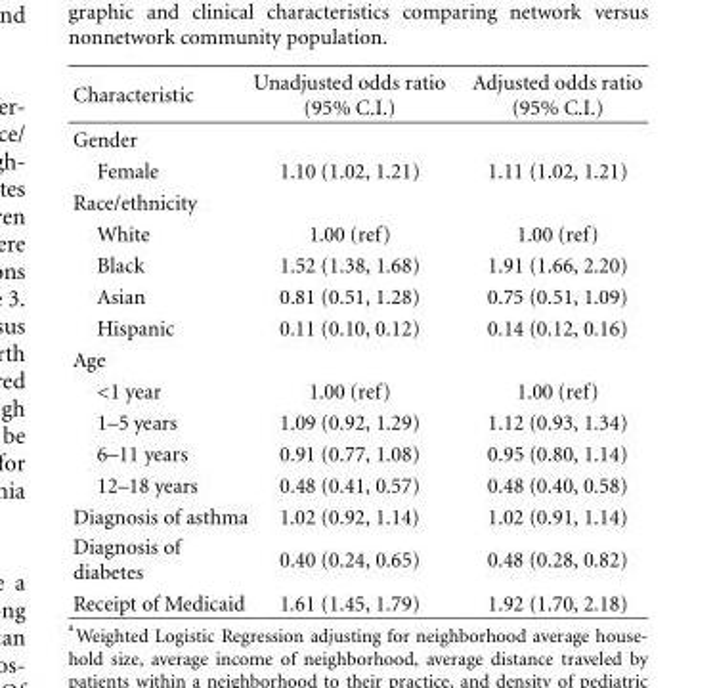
<table><thead><tr><td>Characteristic</td><td>Unadjusted odds ratio (95% C.I.)</td><td>Adjusted odds ratio (95% C.I.)</td></tr></thead><tbody><tr><td colspan="3">Gender</td></tr><tr><td>Female</td><td>1.10 (1.02, 1.21)</td><td>1.11 (1.02, 1.21)</td></tr><tr><td colspan="3">Race/ethnicity</td></tr><tr><td>White</td><td>1.00 (ref)</td><td>1.00 (ref)</td></tr><tr><td>Black</td><td>1.52 (1.38, 1.68)</td><td>1.91 (1.66, 2.20)</td></tr><tr><td>Asian</td><td>0.81 (0.51, 1.28)</td><td>0.75 (0.51, 1.09)</td></tr><tr><td>Hispanic</td><td>0.11 (0.10, 0.12)</td><td>0.14 (0.12, 0.16)</td></tr><tr><td colspan="3">Age</td></tr><tr><td>&lt;1 year</td><td>1.00 (ref)</td><td>1.00 (ref)</td></tr><tr><td>1–5 years</td><td>1.09 (0.92, 1.29)</td><td>1.12 (0.93, 1.34)</td></tr><tr><td>6–11 years</td><td>0.91 (0.77, 1.08)</td><td>0.95 (0.80, 1.14)</td></tr><tr><td>12–18 years</td><td>0.48 (0.41, 0.57)</td><td>0.48 (0.40, 0.58)</td></tr><tr><td>Diagnosis of asthma</td><td>1.02 (0.92, 1.14)</td><td>1.02 (0.91, 1.14)</td></tr><tr><td>Diagnosis of diabetes</td><td>0.40 (0.24, 0.65)</td><td>0.48 (0.28, 0.82)</td></tr><tr><td>Receipt of Medicaid</td><td>1.61 (1.45, 1.79)</td><td>1.92 (1.70, 2.18)</td></tr></tbody></table>